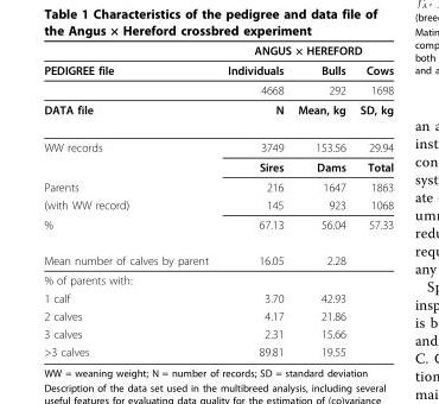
<table><thead><tr><td rowspan="2">PEDIGREE file</td><td colspan="3">ANGUS × HEREFORD</td></tr><tr><td>Individuals</td><td>Bulls</td><td>Cows</td></tr></thead><tbody><tr><td></td><td>4668</td><td>292</td><td>1698</td></tr><tr><td>DATA file</td><td>N</td><td>Mean, kg</td><td>SD, kg</td></tr><tr><td rowspan="2">WW records</td><td>3749</td><td>153.56</td><td>29.94</td></tr><tr><td>Sires</td><td>Dams</td><td>Total</td></tr><tr><td>Parents</td><td>216</td><td>1647</td><td>1863</td></tr><tr><td>(with WW record)</td><td>145</td><td>923</td><td>1068</td></tr><tr><td>%</td><td>67.13</td><td>56.04</td><td>57.33</td></tr><tr><td>Mean number of calves by parent</td><td>16.05</td><td>2.28</td><td></td></tr><tr><td colspan="4">% of parents with:</td></tr><tr><td>1 calf</td><td>3.70</td><td>42.93</td><td></td></tr><tr><td>2 calves</td><td>4.17</td><td>21.86</td><td></td></tr><tr><td>3 calves</td><td>2.31</td><td>15.66</td><td></td></tr><tr><td>&gt;3 calves</td><td>89.81</td><td>19.55</td><td></td></tr></tbody></table>